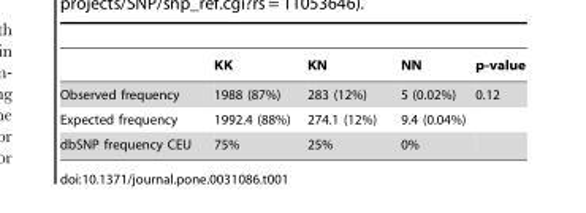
<table><thead><tr><td></td><td>KK</td><td>KN</td><td>NN</td><td>p-value</td></tr></thead><tbody><tr><td>Observed frequency</td><td>1988 (87%)</td><td>283 (12%)</td><td>5 (0.02%)</td><td>0.12</td></tr><tr><td>Expected frequency</td><td>1992.4 (88%)</td><td>274.1 (12%)</td><td>9.4 (0.04%)</td><td></td></tr><tr><td>dbSNP frequency CEU</td><td>75%</td><td>25%</td><td>0%</td><td></td></tr></tbody></table>